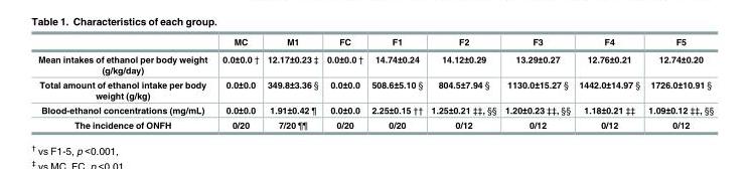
<table><thead><tr><td></td><td>MC</td><td>M1</td><td>FC</td><td>F1</td><td>F2</td><td>F3</td><td>F4</td><td>F5</td></tr></thead><tbody><tr><td>Mean intakes of ethanol per body weight (g/kg/day)</td><td>0.0±0.0 †</td><td>12.17±0.23 ‡</td><td>0.0±0.0 †</td><td>14.74±0.24</td><td>14.12±0.29</td><td>13.29±0.27</td><td>12.76±0.21</td><td>12.74±0.20</td></tr><tr><td>Total amount of ethanol intake per body weight (g/kg)</td><td>0.0±0.0</td><td>349.8±3.36 §</td><td>0.0±0.0</td><td>508.6±5.10 §</td><td>804.5±7.94 §</td><td>1130.0±15.27 §</td><td>1442.0±14.97 §</td><td>1726.0±10.91 §</td></tr><tr><td>Blood-ethanol concentrations (mg/mL)</td><td>0.0±0.0</td><td>1.91±0.42 ¶</td><td>0.0±0.0</td><td>2.25±0.15 ††</td><td>1.25±0.21 ‡‡, §§</td><td>1.20±0.23 ‡‡, §§</td><td>1.18±0.21 ‡‡</td><td>1.09±0.12 ‡‡, §§</td></tr><tr><td>The incidence of ONFH</td><td>0/20</td><td>7/20 ¶¶</td><td>0/20</td><td>0/20</td><td>0/12</td><td>0/12</td><td>0/12</td><td>0/12</td></tr></tbody></table>